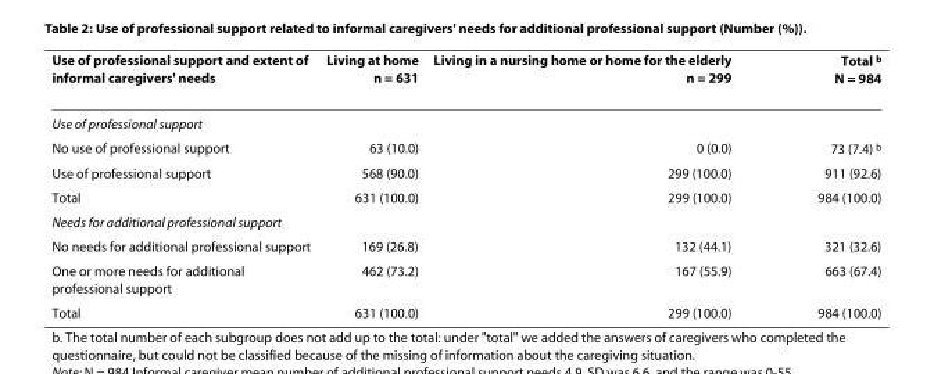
<table><thead><tr><td>Use of professional support and extent of informal caregivers&#x27; needs</td><td>Living at home n = 631</td><td>Living in a nursing home or home for the elderly n = 299</td><td>Total <sup>b</sup> N = 984</td></tr></thead><tbody><tr><td colspan="4">Use of professional support</td></tr><tr><td>No use of professional support</td><td>63 (10.0)</td><td>0 (0.0)</td><td>73 (7.4) <sup>b</sup></td></tr><tr><td>Use of professional support</td><td>568 (90.0)</td><td>299 (100.0)</td><td>911 (92.6)</td></tr><tr><td>Total</td><td>631 (100.0)</td><td>299 (100.0)</td><td>984 (100.0)</td></tr><tr><td colspan="4">Needs for additional professional support</td></tr><tr><td>No needs for additional professional support</td><td>169 (26.8)</td><td>132 (44.1)</td><td>321 (32.6)</td></tr><tr><td>One or more needs for additional professional support</td><td>462 (73.2)</td><td>167 (55.9)</td><td>663 (67.4)</td></tr><tr><td>Total</td><td>631 (100.0)</td><td>299 (100.0)</td><td>984 (100.0)</td></tr></tbody></table>